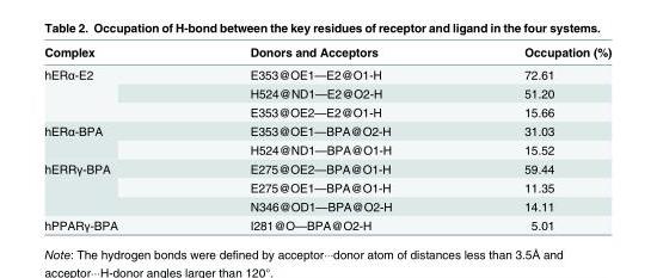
<table><thead><tr><td>Complex</td><td>Donors and Acceptors</td><td>Occupation (%)</td></tr></thead><tbody><tr><td rowspan="3">hERα-E2</td><td>E353@OE1—E2@O1-H</td><td>72.61</td></tr><tr><td>H524@ND1—E2@O2-H</td><td>51.20</td></tr><tr><td>E353@OE2—E2@O1-H</td><td>15.66</td></tr><tr><td rowspan="2">hERα-BPA</td><td>E353@OE1—BPA@O2-H</td><td>31.03</td></tr><tr><td>H524@ND1—BPA@O1-H</td><td>15.52</td></tr><tr><td rowspan="3">hERRγ-BPA</td><td>E275@OE2—BPA@O1-H</td><td>59.44</td></tr><tr><td>E275@OE1—BPA@O1-H</td><td>11.35</td></tr><tr><td>N346@OD1—BPA@O2-H</td><td>14.11</td></tr><tr><td>hPPARγ-BPA</td><td>I281@O—BPA@O2-H</td><td>5.01</td></tr></tbody></table>